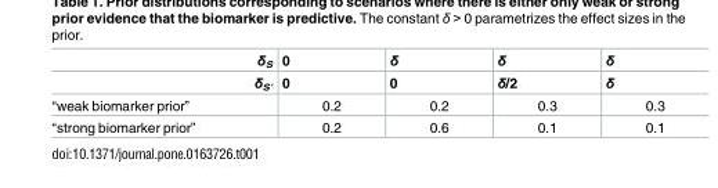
<table><thead><tr><td rowspan="2">δ<sub>S</sub> δ<sub>S’</sub></td><td rowspan="2">0 0</td><td rowspan="2">δ 0</td><td rowspan="2">δ δ/2</td><td rowspan="2">δ δ</td></tr><tr></tr></thead><tbody><tr><td>“weak biomarker prior”</td><td>0.2</td><td>0.2</td><td>0.3</td><td>0.3</td></tr><tr><td>“strong biomarker prior”</td><td>0.2</td><td>0.6</td><td>0.1</td><td>0.1</td></tr></tbody></table>